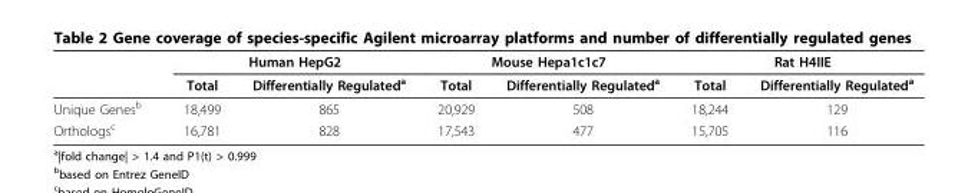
<table><thead><tr><td rowspan="2"></td><td colspan="2">Human HepG2</td><td colspan="2">Mouse Hepa1c1c7</td><td colspan="2">Rat H4IIE</td></tr><tr><td>Total</td><td>Differentially Regulated<sup>a</sup></td><td>Total</td><td>Differentially Regulated<sup>a</sup></td><td>Total</td><td>Differentially Regulated<sup>a</sup></td></tr></thead><tbody><tr><td>Unique Genes<sup>b</sup></td><td>18,499</td><td>865</td><td>20,929</td><td>508</td><td>18,244</td><td>129</td></tr><tr><td>Orthologs<sup>c</sup></td><td>16,781</td><td>828</td><td>17,543</td><td>477</td><td>15,705</td><td>116</td></tr></tbody></table>